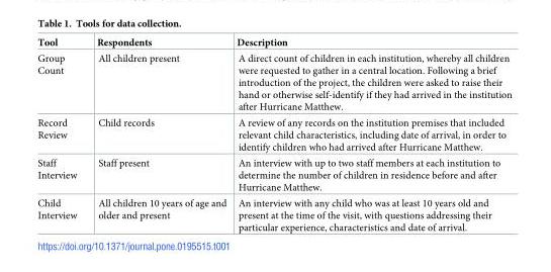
<table><thead><tr><td>Tool</td><td>Respondents</td><td>Description</td></tr></thead><tbody><tr><td>Group Count</td><td>All children present</td><td>A direct count of children in each institution, whereby all children were requested to gather in a central location. Following a brief introduction of the project, the children were asked to raise their hand or otherwise self-identify if they had arrived in the institution after Hurricane Matthew.</td></tr><tr><td>Record Review</td><td>Child records</td><td>A review of any records on the institution premises that included relevant child characteristics, including date of arrival, in order to identify children who had arrived after Hurricane Matthew.</td></tr><tr><td>Staff Interview</td><td>Staff present</td><td>An interview with up to two staff members at each institution to determine the number of children in residence before and after Hurricane Matthew.</td></tr><tr><td>Child Interview</td><td>All children 10 years of age and older and present</td><td>An interview with any child who was at least 10 years old and present at the time of the visit, with questions addressing their particular experience, characteristics and date of arrival.</td></tr></tbody></table>